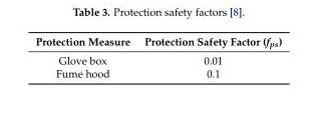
<table><thead><tr><td>Protection Measure</td><td>Protection Safety Factor (f<sub>ps</sub>)</td></tr></thead><tbody><tr><td>Glove box</td><td>0.01</td></tr><tr><td>Fume hood</td><td>0.1</td></tr></tbody></table>